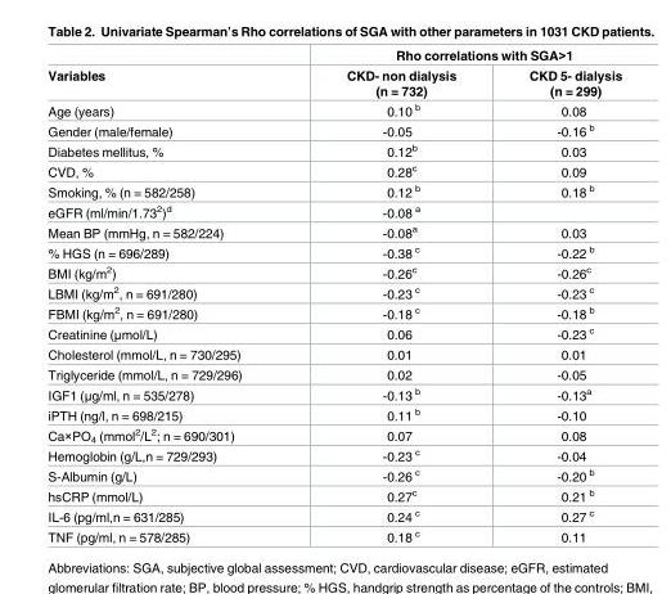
<table><thead><tr><td rowspan="2">Variables</td><td colspan="2">Rho correlations with SGA&gt;1</td></tr><tr><td>CKD- non dialysis (n = 732)</td><td>CKD 5- dialysis (n = 299)</td></tr></thead><tbody><tr><td>Age (years)</td><td>0.10 <sup>b</sup></td><td>0.08</td></tr><tr><td>Gender (male/female)</td><td>-0.05</td><td>-0.16 <sup>b</sup></td></tr><tr><td>Diabetes mellitus, %</td><td>0.12<sup>b</sup></td><td>0.03</td></tr><tr><td>CVD, %</td><td>0.28<sup>c</sup></td><td>0.09</td></tr><tr><td>Smoking, % (n = 582/258)</td><td>0.12 <sup>b</sup></td><td>0.18 <sup>b</sup></td></tr><tr><td>eGFR (ml/min/1.73<sup>2</sup>)<sup>d</sup></td><td>-0.08 <sup>a</sup></td><td></td></tr><tr><td>Mean BP (mmHg, n = 582/224)</td><td>-0.08<sup>a</sup></td><td>0.03</td></tr><tr><td>% HGS (n = 696/289)</td><td>-0.38 <sup>c</sup></td><td>-0.22 <sup>b</sup></td></tr><tr><td>BMI (kg/m<sup>2</sup>)</td><td>-0.26<sup>c</sup></td><td>-0.26<sup>c</sup></td></tr><tr><td>LBMI (kg/m<sup>2</sup>, n = 691/280)</td><td>-0.23 <sup>c</sup></td><td>-0.23 <sup>c</sup></td></tr><tr><td>FBMI (kg/m<sup>2</sup>, n = 691/280)</td><td>-0.18 <sup>c</sup></td><td>-0.18 <sup>b</sup></td></tr><tr><td>Creatinine (μmol/L)</td><td>0.06</td><td>-0.23 <sup>c</sup></td></tr><tr><td>Cholesterol (mmol/L, n = 730/295)</td><td>0.01</td><td>0.01</td></tr><tr><td>Triglyceride (mmol/L, n = 729/296)</td><td>0.02</td><td>-0.05</td></tr><tr><td>IGF1 (μg/ml, n = 535/278)</td><td>-0.13 <sup>b</sup></td><td>-0.13<sup>a</sup></td></tr><tr><td>iPTH (ng/l, n = 698/215)</td><td>0.11 <sup>b</sup></td><td>-0.10</td></tr><tr><td>Ca×PO<sub>4</sub> (mmol<sup>2</sup>/L<sup>2</sup>; n = 690/301)</td><td>0.07</td><td>0.08</td></tr><tr><td>Hemoglobin (g/L,n = 729/293)</td><td>-0.23 <sup>c</sup></td><td>-0.04</td></tr><tr><td>S-Albumin (g/L)</td><td>-0.26 <sup>c</sup></td><td>-0.20 <sup>b</sup></td></tr><tr><td>hsCRP (mmol/L)</td><td>0.27<sup>c</sup></td><td>0.21 <sup>b</sup></td></tr><tr><td>IL-6 (pg/ml,n = 631/285)</td><td>0.24 <sup>c</sup></td><td>0.27 <sup>c</sup></td></tr><tr><td>TNF (pg/ml, n = 578/285)</td><td>0.18 <sup>c</sup></td><td>0.11</td></tr></tbody></table>